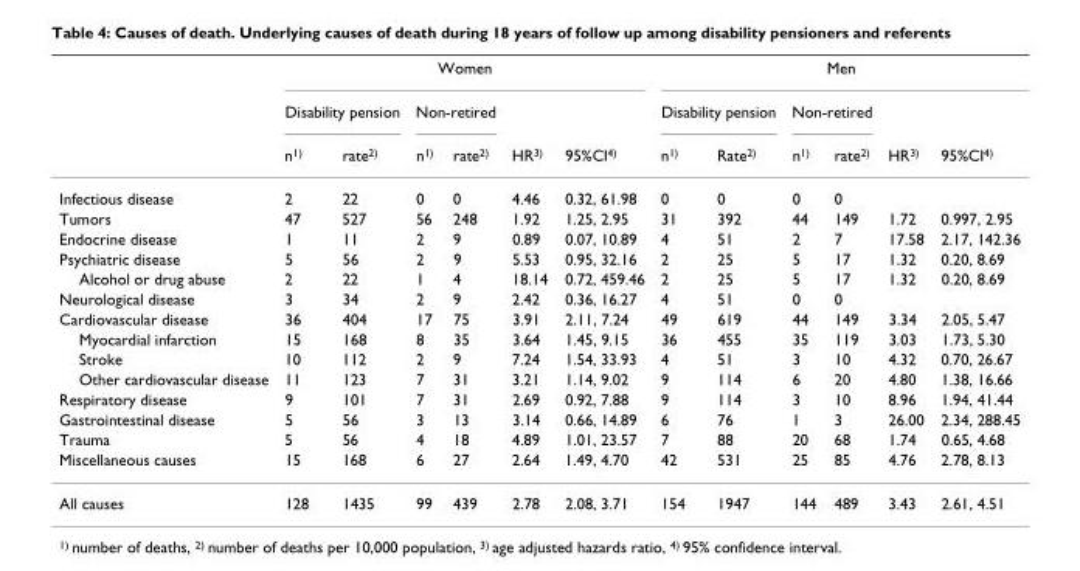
<table><thead><tr><td rowspan="3"></td><td colspan="6">Women</td><td colspan="6">Men</td></tr><tr><td colspan="2">Disability pension</td><td colspan="2">Non-retired</td><td rowspan="2">HR3)</td><td rowspan="2">95%CI4)</td><td colspan="2">Disability pension</td><td colspan="2">Non-retired</td><td rowspan="2">HR3)</td><td rowspan="2">95%CI4)</td></tr><tr><td>n1)</td><td>rate2)</td><td>n1)</td><td>rate2)</td><td>n1)</td><td>Rate2)</td><td>n1)</td><td>rate2)</td></tr></thead><tbody><tr><td>Infectious disease</td><td>2</td><td>22</td><td>0</td><td>0</td><td>4.46</td><td>0.32, 61.98</td><td>0</td><td>0</td><td>0</td><td>0</td><td></td><td></td></tr><tr><td>Tumors</td><td>47</td><td>527</td><td>56</td><td>248</td><td>1.92</td><td>1.25, 2.95</td><td>31</td><td>392</td><td>44</td><td>149</td><td>1.72</td><td>0.997, 2.95</td></tr><tr><td>Endocrine disease</td><td>1</td><td>11</td><td>2</td><td>9</td><td>0.89</td><td>0.07, 10.89</td><td>4</td><td>51</td><td>2</td><td>7</td><td>17.58</td><td>2.17, 142.36</td></tr><tr><td>Psychiatric disease</td><td>5</td><td>56</td><td>2</td><td>9</td><td>5.53</td><td>0.95, 32.16</td><td>2</td><td>25</td><td>5</td><td>17</td><td>1.32</td><td>0.20, 8.69</td></tr><tr><td>Alcohol or drug abuse</td><td>2</td><td>22</td><td>1</td><td>4</td><td>18.14</td><td>0.72, 459.46</td><td>2</td><td>25</td><td>5</td><td>17</td><td>1.32</td><td>0.20, 8.69</td></tr><tr><td>Neurological disease</td><td>3</td><td>34</td><td>2</td><td>9</td><td>2.42</td><td>0.36, 16.27</td><td>4</td><td>51</td><td>0</td><td>0</td><td></td><td></td></tr><tr><td>Cardiovascular disease</td><td>36</td><td>404</td><td>17</td><td>75</td><td>3.91</td><td>2.11, 7.24</td><td>49</td><td>619</td><td>44</td><td>149</td><td>3.34</td><td>2.05, 5.47</td></tr><tr><td>Myocardial infarction</td><td>15</td><td>168</td><td>8</td><td>35</td><td>3.64</td><td>1.45, 9.15</td><td>36</td><td>455</td><td>35</td><td>119</td><td>3.03</td><td>1.73, 5.30</td></tr><tr><td>Stroke</td><td>10</td><td>112</td><td>2</td><td>9</td><td>7.24</td><td>1.54, 33.93</td><td>4</td><td>51</td><td>3</td><td>10</td><td>4.32</td><td>0.70, 26.67</td></tr><tr><td>Other cardiovascular disease</td><td>11</td><td>123</td><td>7</td><td>31</td><td>3.21</td><td>1.14, 9.02</td><td>9</td><td>114</td><td>6</td><td>20</td><td>4.80</td><td>1.38, 16.66</td></tr><tr><td>Respiratory disease</td><td>9</td><td>101</td><td>7</td><td>31</td><td>2.69</td><td>0.92, 7.88</td><td>9</td><td>114</td><td>3</td><td>10</td><td>8.96</td><td>1.94, 41.44</td></tr><tr><td>Gastrointestinal disease</td><td>5</td><td>56</td><td>3</td><td>13</td><td>3.14</td><td>0.66, 14.89</td><td>6</td><td>76</td><td>1</td><td>3</td><td>26.00</td><td>2.34, 288.45</td></tr><tr><td>Trauma</td><td>5</td><td>56</td><td>4</td><td>18</td><td>4.89</td><td>1.01, 23.57</td><td>7</td><td>88</td><td>20</td><td>68</td><td>1.74</td><td>0.65, 4.68</td></tr><tr><td>Miscellaneous causes</td><td>15</td><td>168</td><td>6</td><td>27</td><td>2.64</td><td>1.49, 4.70</td><td>42</td><td>531</td><td>25</td><td>85</td><td>4.76</td><td>2.78, 8.13</td></tr><tr><td>All causes</td><td>128</td><td>1435</td><td>99</td><td>439</td><td>2.78</td><td>2.08, 3.71</td><td>154</td><td>1947</td><td>144</td><td>489</td><td>3.43</td><td>2.61, 4.51</td></tr></tbody></table>